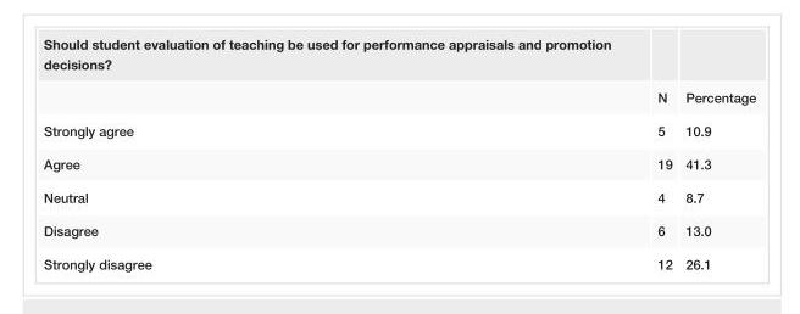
<table><tbody><tr><td colspan="3">Should student evaluation of teaching be used for performance appraisals and promotion decisions?</td></tr><tr><td></td><td>N</td><td>Percentage</td></tr><tr><td>Strongly agree</td><td>5</td><td>10.9</td></tr><tr><td>Agree</td><td>19</td><td>41.3</td></tr><tr><td>Neutral</td><td>4</td><td>8.7</td></tr><tr><td>Disagree</td><td>6</td><td>13.0</td></tr><tr><td>Strongly disagree</td><td>12</td><td>26.1</td></tr></tbody></table>